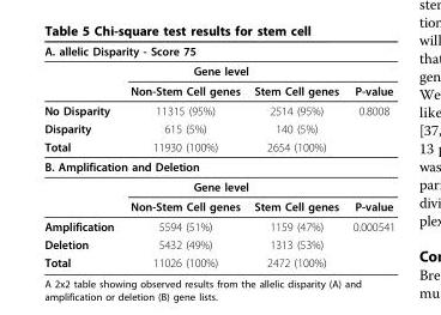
<table><thead><tr><td rowspan="2" colspan="4">A. allelic Disparity - Score 75 Gene level</td></tr><tr></tr><tr><td></td><td>Non-Stem Cell genes</td><td>Stem Cell genes</td><td>P-value</td></tr></thead><tbody><tr><td>No Disparity</td><td>11315 (95%)</td><td>2514 (95%)</td><td>0.8008</td></tr><tr><td>Disparity</td><td>615 (5%)</td><td>140 (5%)</td><td></td></tr><tr><td>Total</td><td>11930 (100%)</td><td>2654 (100%)</td><td></td></tr><tr><td colspan="4">B. Amplification and Deletion</td></tr><tr><td colspan="4">Gene level</td></tr><tr><td></td><td>Non-Stem Cell genes</td><td>Stem Cell genes</td><td>P-value</td></tr><tr><td>Amplification</td><td>5594 (51%)</td><td>1159 (47%)</td><td>0.000541</td></tr><tr><td>Deletion</td><td>5432 (49%)</td><td>1313 (53%)</td><td></td></tr><tr><td>Total</td><td>11026 (100%)</td><td>2472 (100%)</td><td></td></tr></tbody></table>